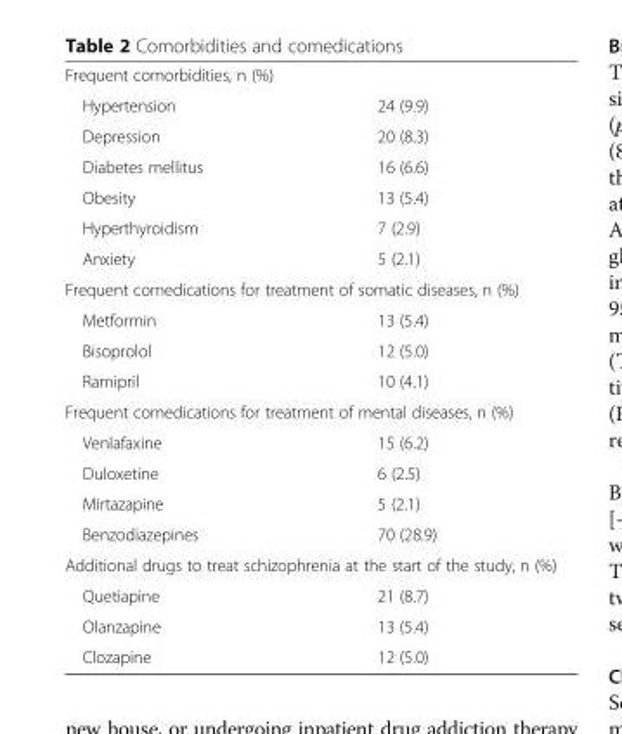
<table><tbody><tr><td colspan="2">Frequent comorbidities, n (%)</td></tr><tr><td>Hypertension</td><td>24 (9.9)</td></tr><tr><td>Depression</td><td>20 (8.3)</td></tr><tr><td>Diabetes mellitus</td><td>16 (6.6)</td></tr><tr><td>Obesity</td><td>13 (5.4)</td></tr><tr><td>Hyperthyroidism</td><td>7 (2.9)</td></tr><tr><td>Anxiety</td><td>5 (2.1)</td></tr><tr><td colspan="2">Frequent comedications for treatment of somatic diseases, n (%)</td></tr><tr><td>Metformin</td><td>13 (5.4)</td></tr><tr><td>Bisoprolol</td><td>12 (5.0)</td></tr><tr><td>Ramipril</td><td>10 (4.1)</td></tr><tr><td colspan="2">Frequent comedications for treatment of mental diseases, n (%)</td></tr><tr><td>Venlafaxine</td><td>15 (6.2)</td></tr><tr><td>Duloxetine</td><td>6 (2.5)</td></tr><tr><td>Mirtazapine</td><td>5 (2.1)</td></tr><tr><td>Benzodiazepines</td><td>70 (28.9)</td></tr><tr><td colspan="2">Additional drugs to treat schizophrenia at the start of the study, n (%)</td></tr><tr><td>Quetiapine</td><td>21 (8.7)</td></tr><tr><td>Olanzapine</td><td>13 (5.4)</td></tr><tr><td>Clozapine</td><td>12 (5.0)</td></tr></tbody></table>